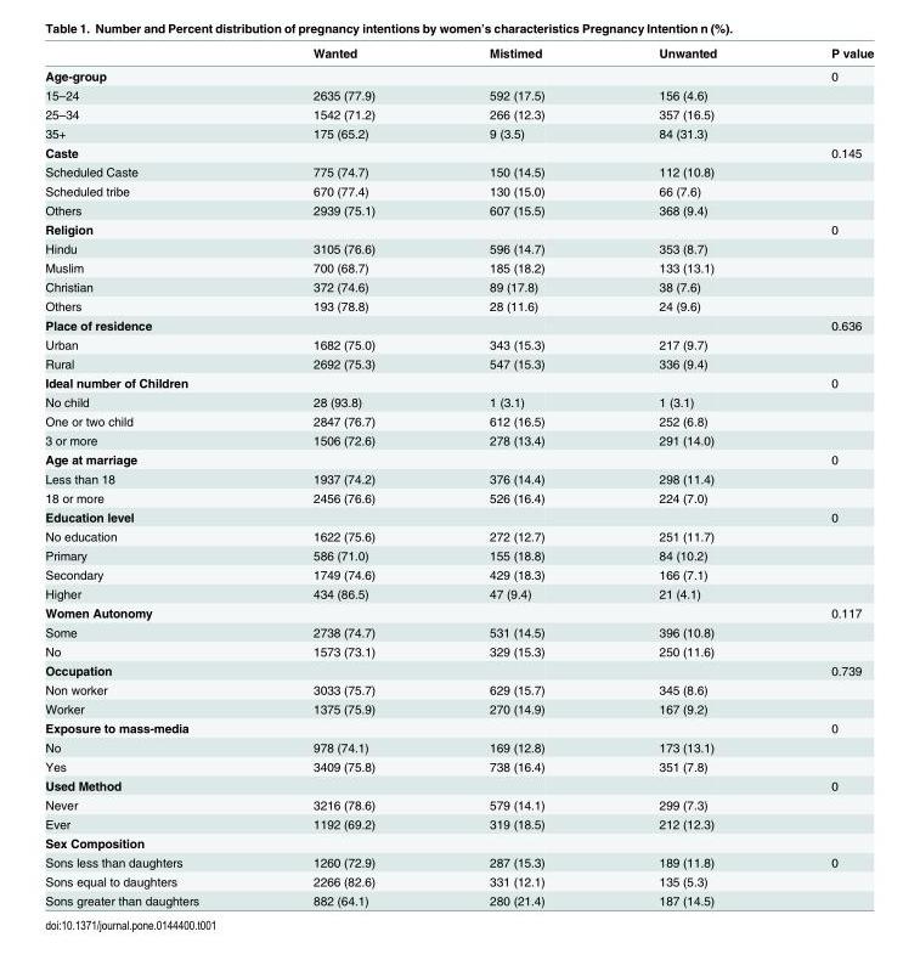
<table><thead><tr><td></td><td>Wanted</td><td>Mistimed</td><td>Unwanted</td><td>P value</td></tr></thead><tbody><tr><td>Age-group</td><td></td><td></td><td></td><td>0</td></tr><tr><td>15–24</td><td>2635 (77.9)</td><td>592 (17.5)</td><td>156 (4.6)</td><td></td></tr><tr><td>25–34</td><td>1542 (71.2)</td><td>266 (12.3)</td><td>357 (16.5)</td><td></td></tr><tr><td>35+</td><td>175 (65.2)</td><td>9 (3.5)</td><td>84 (31.3)</td><td></td></tr><tr><td>Caste</td><td></td><td></td><td></td><td>0.145</td></tr><tr><td>Scheduled Caste</td><td>775 (74.7)</td><td>150 (14.5)</td><td>112 (10.8)</td><td></td></tr><tr><td>Scheduled tribe</td><td>670 (77.4)</td><td>130 (15.0)</td><td>66 (7.6)</td><td></td></tr><tr><td>Others</td><td>2939 (75.1)</td><td>607 (15.5)</td><td>368 (9.4)</td><td></td></tr><tr><td>Religion</td><td></td><td></td><td></td><td>0</td></tr><tr><td>Hindu</td><td>3105 (76.6)</td><td>596 (14.7)</td><td>353 (8.7)</td><td></td></tr><tr><td>Muslim</td><td>700 (68.7)</td><td>185 (18.2)</td><td>133 (13.1)</td><td></td></tr><tr><td>Christian</td><td>372 (74.6)</td><td>89 (17.8)</td><td>38 (7.6)</td><td></td></tr><tr><td>Others</td><td>193 (78.8)</td><td>28 (11.6)</td><td>24 (9.6)</td><td></td></tr><tr><td>Place of residence</td><td></td><td></td><td></td><td>0.636</td></tr><tr><td>Urban</td><td>1682 (75.0)</td><td>343 (15.3)</td><td>217 (9.7)</td><td></td></tr><tr><td>Rural</td><td>2692 (75.3)</td><td>547 (15.3)</td><td>336 (9.4)</td><td></td></tr><tr><td>Ideal number of Children</td><td></td><td></td><td></td><td>0</td></tr><tr><td>No child</td><td>28 (93.8)</td><td>1 (3.1)</td><td>1 (3.1)</td><td></td></tr><tr><td>One or two child</td><td>2847 (76.7)</td><td>612 (16.5)</td><td>252 (6.8)</td><td></td></tr><tr><td>3 or more</td><td>1506 (72.6)</td><td>278 (13.4)</td><td>291 (14.0)</td><td></td></tr><tr><td>Age at marriage</td><td></td><td></td><td></td><td>0</td></tr><tr><td>Less than 18</td><td>1937 (74.2)</td><td>376 (14.4)</td><td>298 (11.4)</td><td></td></tr><tr><td>18 or more</td><td>2456 (76.6)</td><td>526 (16.4)</td><td>224 (7.0)</td><td></td></tr><tr><td>Education level</td><td></td><td></td><td></td><td>0</td></tr><tr><td>No education</td><td>1622 (75.6)</td><td>272 (12.7)</td><td>251 (11.7)</td><td></td></tr><tr><td>Primary</td><td>586 (71.0)</td><td>155 (18.8)</td><td>84 (10.2)</td><td></td></tr><tr><td>Secondary</td><td>1749 (74.6)</td><td>429 (18.3)</td><td>166 (7.1)</td><td></td></tr><tr><td>Higher</td><td>434 (86.5)</td><td>47 (9.4)</td><td>21 (4.1)</td><td></td></tr><tr><td>Women Autonomy</td><td></td><td></td><td></td><td>0.117</td></tr><tr><td>Some</td><td>2738 (74.7)</td><td>531 (14.5)</td><td>396 (10.8)</td><td></td></tr><tr><td>No</td><td>1573 (73.1)</td><td>329 (15.3)</td><td>250 (11.6)</td><td></td></tr><tr><td>Occupation</td><td></td><td></td><td></td><td>0.739</td></tr><tr><td>Non worker</td><td>3033 (75.7)</td><td>629 (15.7)</td><td>345 (8.6)</td><td></td></tr><tr><td>Worker</td><td>1375 (75.9)</td><td>270 (14.9)</td><td>167 (9.2)</td><td></td></tr><tr><td>Exposure to mass-media</td><td></td><td></td><td></td><td>0</td></tr><tr><td>No</td><td>978 (74.1)</td><td>169 (12.8)</td><td>173 (13.1)</td><td></td></tr><tr><td>Yes</td><td>3409 (75.8)</td><td>738 (16.4)</td><td>351 (7.8)</td><td></td></tr><tr><td>Used Method</td><td></td><td></td><td></td><td>0</td></tr><tr><td>Never</td><td>3216 (78.6)</td><td>579 (14.1)</td><td>299 (7.3)</td><td></td></tr><tr><td>Ever</td><td>1192 (69.2)</td><td>319 (18.5)</td><td>212 (12.3)</td><td></td></tr><tr><td colspan="5">Sex Composition</td></tr><tr><td>Sons less than daughters</td><td>1260 (72.9)</td><td>287 (15.3)</td><td>189 (11.8)</td><td>0</td></tr><tr><td>Sons equal to daughters</td><td>2266 (82.6)</td><td>331 (12.1)</td><td>135 (5.3)</td><td></td></tr><tr><td>Sons greater than daughters</td><td>882 (64.1)</td><td>280 (21.4)</td><td>187 (14.5)</td><td></td></tr></tbody></table>